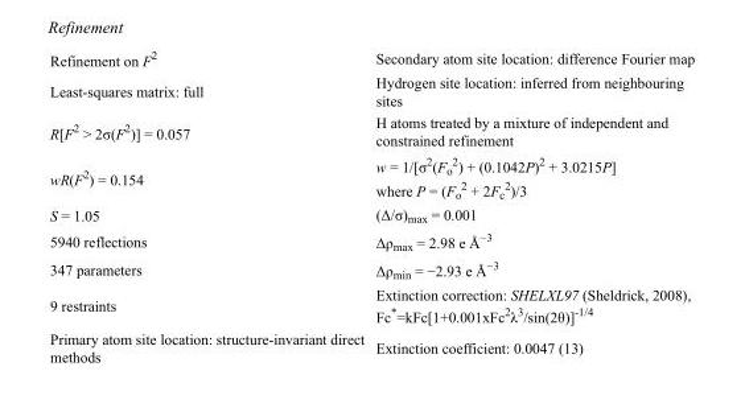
<table><tbody><tr><td>Refinement on F<sup>2</sup></td><td>Secondary atom site location: difference Fourier map</td></tr><tr><td>Least-squares matrix: full</td><td>Hydrogen site location: inferred from neighbouring sites</td></tr><tr><td>R[F<sup>2</sup> &gt; 2σ(F<sup>2</sup>)] = 0.057</td><td>H atoms treated by a mixture of independent and constrained refinement</td></tr><tr><td>wR(F<sup>2</sup>) = 0.154</td><td>w = 1/[σ<sup>2</sup>(F<sub>o</sub> <sup>2</sup>) + (0.1042P)<sup>2</sup> + 3.0215P] where P = (F<sub>o</sub> <sup>2</sup> + 2F<sub>c</sub> <sup>2</sup>)/3</td></tr><tr><td>S = 1.05</td><td>(Δ/σ)<sub>max</sub> = 0.001</td></tr><tr><td>5940 reflections</td><td>Δρ<sub>max</sub> = 2.98 e Å<sup>−3</sup></td></tr><tr><td>347 parameters</td><td>Δρ<sub>min</sub> = −2.93 e Å<sup>−3</sup></td></tr><tr><td>9 restraints</td><td>Extinction correction: SHELXL97 (Sheldrick, 2008), Fc*=kFc[1+0.001xFc<sup>2</sup>λ<sup>3</sup>/sin(2θ)]<sup>-1/4</sup></td></tr><tr><td>Primary atom site location: structure-invariant direct methods</td><td>Extinction coefficient: 0.0047 (13)</td></tr></tbody></table>